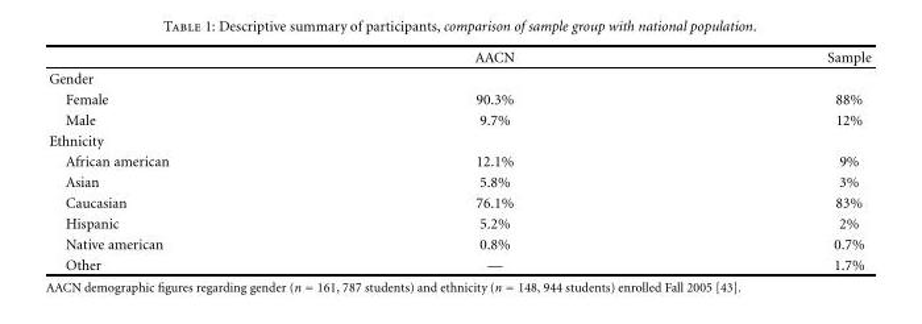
<table><thead><tr><td></td><td>AACN</td><td>Sample</td></tr></thead><tbody><tr><td colspan="3">Gender</td></tr><tr><td>Female</td><td>90.3%</td><td>88%</td></tr><tr><td>Male</td><td>9.7%</td><td>12%</td></tr><tr><td colspan="3">Ethnicity</td></tr><tr><td>African american</td><td>12.1%</td><td>9%</td></tr><tr><td>Asian</td><td>5.8%</td><td>3%</td></tr><tr><td>Caucasian</td><td>76.1%</td><td>83%</td></tr><tr><td>Hispanic</td><td>5.2%</td><td>2%</td></tr><tr><td>Native american</td><td>0.8%</td><td>0.7%</td></tr><tr><td>Other</td><td>—</td><td>1.7%</td></tr></tbody></table>